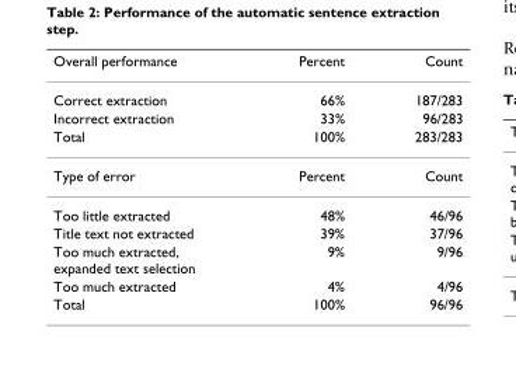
<table><thead><tr><td>Overall performance</td><td>Percent</td><td>Count</td></tr></thead><tbody><tr><td>Correct extraction</td><td>66%</td><td>187/283</td></tr><tr><td>Incorrect extraction</td><td>33%</td><td>96/283</td></tr><tr><td>Total</td><td>100%</td><td>283/283</td></tr><tr><td>Type of error</td><td>Percent</td><td>Count</td></tr><tr><td>Too little extracted</td><td>48%</td><td>46/96</td></tr><tr><td>Title text not extracted</td><td>39%</td><td>37/96</td></tr><tr><td>Too much extracted, expanded text selection</td><td>9%</td><td>9/96</td></tr><tr><td>Too much extracted</td><td>4%</td><td>4/96</td></tr><tr><td>Total</td><td>100%</td><td>96/96</td></tr></tbody></table>